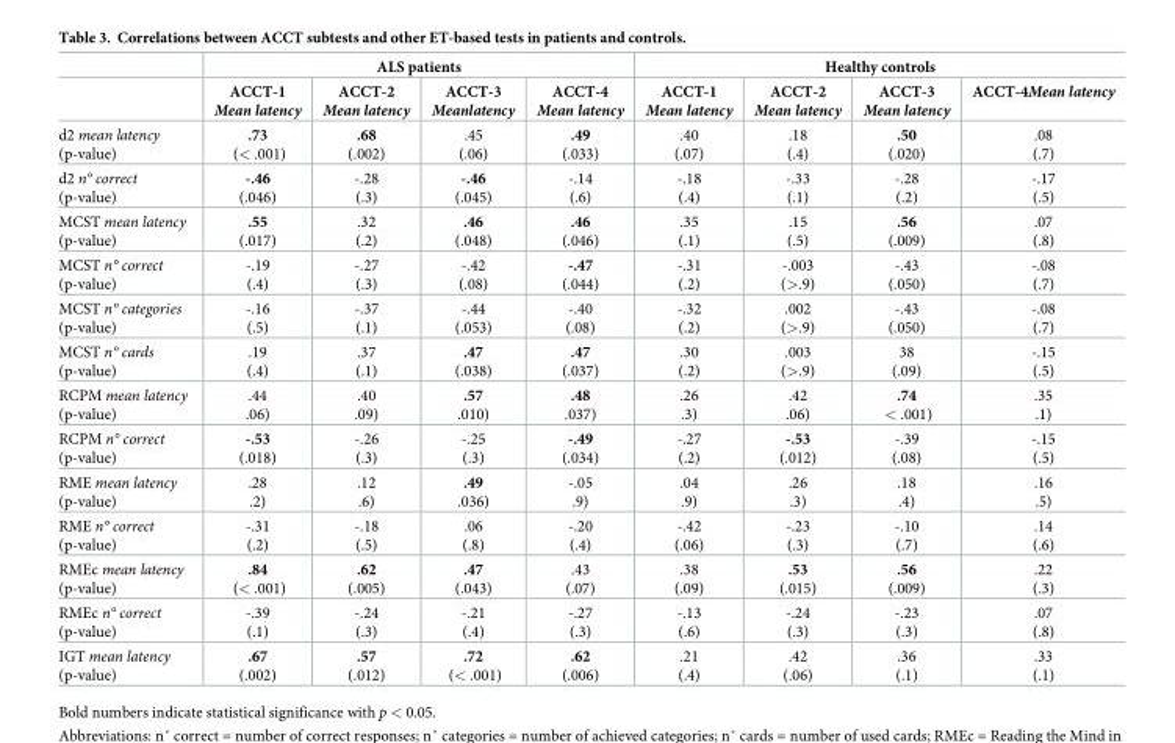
<table><thead><tr><td rowspan="2"></td><td colspan="4">ALS patients</td><td colspan="4">Healthy controls</td></tr><tr><td>ACCT-1 Mean latency</td><td>ACCT-2 Mean latency</td><td>ACCT-3 Meanlatency</td><td>ACCT-4 Mean latency</td><td>ACCT-1 Mean latency</td><td>ACCT-2 Mean latency</td><td>ACCT-3 Mean latency</td><td>ACCT-4Mean latency</td></tr></thead><tbody><tr><td>d2 mean latency (p-value)</td><td>.73 (&lt; .001)</td><td>.68 (.002)</td><td>.45 (.06)</td><td>.49 (.033)</td><td>.40 (.07)</td><td>.18 (.4)</td><td>.50 (.020)</td><td>.08 (.7)</td></tr><tr><td>d2 n° correct (p-value)</td><td>-.46 (.046)</td><td>-.28 (.3)</td><td>-.46 (.045)</td><td>-.14 (.6)</td><td>-.18 (.4)</td><td>-.33 (.1)</td><td>-.28 (.2)</td><td>-.17 (.5)</td></tr><tr><td>MCST mean latency (p-value)</td><td>.55 (.017)</td><td>.32 (.2)</td><td>.46 (.048)</td><td>.46 (.046)</td><td>.35 (.1)</td><td>.15 (.5)</td><td>.56 (.009)</td><td>.07 (.8)</td></tr><tr><td>MCST n° correct (p-value)</td><td>-.19 (.4)</td><td>-.27 (.3)</td><td>-.42 (.08)</td><td>-.47 (.044)</td><td>-.31 (.2)</td><td>-.003 (&gt;.9)</td><td>-.43 (.050)</td><td>-.08 (.7)</td></tr><tr><td>MCST n° categories (p-value)</td><td>-.16 (.5)</td><td>-.37 (.1)</td><td>-.44 (.053)</td><td>-.40 (.08)</td><td>-.32 (.2)</td><td>.002 (&gt;.9)</td><td>-.43 (.050)</td><td>-.08 (.7)</td></tr><tr><td>MCST n° cards (p-value)</td><td>.19 (.4)</td><td>.37 (.1)</td><td>.47 (.038)</td><td>.47 (.037)</td><td>.30 (.2)</td><td>.003 (&gt;.9)</td><td>38 (.09)</td><td>-.15 (.5)</td></tr><tr><td>RCPM mean latency (p-value)</td><td>.44 .06)</td><td>.40 .09)</td><td>.57 .010)</td><td>.48 .037)</td><td>.26 .3)</td><td>.42 .06)</td><td>.74 &lt; .001)</td><td>.35 .1)</td></tr><tr><td>RCPM n° correct (p-value)</td><td>-.53 (.018)</td><td>-.26 (.3)</td><td>-.25 (.3)</td><td>-.49 (.034)</td><td>-.27 (.2)</td><td>-.53 (.012)</td><td>-.39 (.08)</td><td>-.15 (.5)</td></tr><tr><td>RME mean latency (p-value)</td><td>.28 .2)</td><td>.12 .6)</td><td>.49 .036)</td><td>-.05 .9)</td><td>.04 .9)</td><td>.26 .3)</td><td>.18 .4)</td><td>.16 .5)</td></tr><tr><td>RME n° correct (p-value)</td><td>-.31 (.2)</td><td>-.18 (.5)</td><td>.06 (.8)</td><td>-.20 (.4)</td><td>-.42 (.06)</td><td>-.23 (.3)</td><td>-.10 (.7)</td><td>.14 (.6)</td></tr><tr><td>RMEc mean latency (p-value)</td><td>.84 (&lt; .001)</td><td>.62 (.005)</td><td>.47 (.043)</td><td>.43 (.07)</td><td>.38 (.09)</td><td>.53 (.015)</td><td>.56 (.009)</td><td>.22 (.3)</td></tr><tr><td>RMEc n° correct (p-value)</td><td>-.39 (.1)</td><td>-.24 (.3)</td><td>-.21 (.4)</td><td>-.27 (.3)</td><td>-.13 (.6)</td><td>-.24 (.3)</td><td>-.23 (.3)</td><td>.07 (.8)</td></tr><tr><td>IGT mean latency (p-value)</td><td>.67 (.002)</td><td>.57 (.012)</td><td>.72 (&lt; .001)</td><td>.62 (.006)</td><td>.21 (.4)</td><td>.42 (.06)</td><td>.36 (.1)</td><td>.33 (.1)</td></tr></tbody></table>